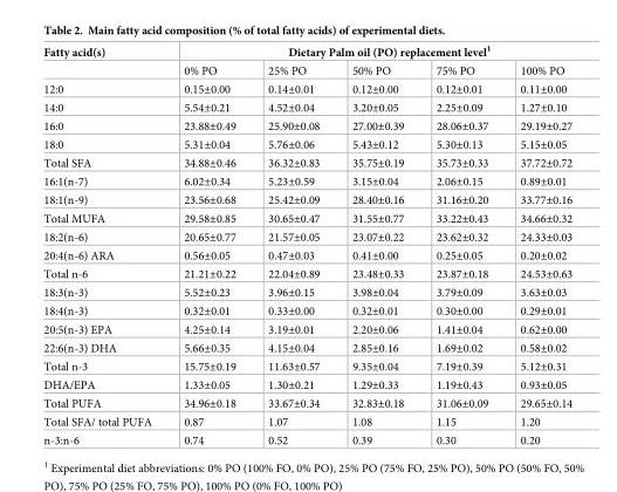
<table><thead><tr><td rowspan="2">Fatty acid(s)</td><td colspan="5">Dietary Palm oil (PO) replacement level<sup>1</sup></td></tr><tr><td>0% PO</td><td>25% PO</td><td>50% PO</td><td>75% PO</td><td>100% PO</td></tr></thead><tbody><tr><td>12:0</td><td>0.15±0.00</td><td>0.14±0.01</td><td>0.12±0.00</td><td>0.12±0.01</td><td>0.11±0.00</td></tr><tr><td>14:0</td><td>5.54±0.21</td><td>4.52±0.04</td><td>3.20±0.05</td><td>2.25±0.09</td><td>1.27±0.10</td></tr><tr><td>16:0</td><td>23.88±0.49</td><td>25.90±0.08</td><td>27.00±0.39</td><td>28.06±0.37</td><td>29.19±0.27</td></tr><tr><td>18:0</td><td>5.31±0.04</td><td>5.76±0.06</td><td>5.43±0.12</td><td>5.30±0.13</td><td>5.15±0.05</td></tr><tr><td>Total SFA</td><td>34.88±0.46</td><td>36.32±0.83</td><td>35.75±0.19</td><td>35.73±0.33</td><td>37.72±0.72</td></tr><tr><td>16:1(n-7)</td><td>6.02±0.34</td><td>5.23±0.59</td><td>3.15±0.04</td><td>2.06±0.15</td><td>0.89±0.01</td></tr><tr><td>18:1(n-9)</td><td>23.56±0.68</td><td>25.42±0.09</td><td>28.40±0.16</td><td>31.16±0.20</td><td>33.77±0.16</td></tr><tr><td>Total MUFA</td><td>29.58±0.85</td><td>30.65±0.47</td><td>31.55±0.77</td><td>33.22±0.43</td><td>34.66±0.32</td></tr><tr><td>18:2(n-6)</td><td>20.65±0.77</td><td>21.57±0.05</td><td>23.07±0.22</td><td>23.62±0.32</td><td>24.33±0.03</td></tr><tr><td>20:4(n-6) ARA</td><td>0.56±0.05</td><td>0.47±0.03</td><td>0.41±0.00</td><td>0.25±0.05</td><td>0.20±0.02</td></tr><tr><td>Total n-6</td><td>21.21±0.22</td><td>22.04±0.89</td><td>23.48±0.33</td><td>23.87±0.18</td><td>24.53±0.63</td></tr><tr><td>18:3(n-3)</td><td>5.52±0.23</td><td>3.96±0.15</td><td>3.98±0.04</td><td>3.79±0.09</td><td>3.63±0.03</td></tr><tr><td>18:4(n-3)</td><td>0.32±0.01</td><td>0.33±0.00</td><td>0.32±0.01</td><td>0.30±0.00</td><td>0.29±0.01</td></tr><tr><td>20:5(n-3) EPA</td><td>4.25±0.14</td><td>3.19±0.01</td><td>2.20±0.06</td><td>1.41±0.04</td><td>0.62±0.00</td></tr><tr><td>22:6(n-3) DHA</td><td>5.66±0.35</td><td>4.15±0.04</td><td>2.85±0.16</td><td>1.69±0.02</td><td>0.58±0.02</td></tr><tr><td>Total n-3</td><td>15.75±0.19</td><td>11.63±0.57</td><td>9.35±0.04</td><td>7.19±0.39</td><td>5.12±0.31</td></tr><tr><td>DHA/EPA</td><td>1.33±0.05</td><td>1.30±0.21</td><td>1.29±0.33</td><td>1.19±0.43</td><td>0.93±0.05</td></tr><tr><td>Total PUFA</td><td>34.96±0.18</td><td>33.67±0.34</td><td>32.83±0.18</td><td>31.06±0.09</td><td>29.65±0.14</td></tr><tr><td>Total SFA/ total PUFA</td><td>0.87</td><td>1.07</td><td>1.08</td><td>1.15</td><td>1.20</td></tr><tr><td>n-3:n-6</td><td>0.74</td><td>0.52</td><td>0.39</td><td>0.30</td><td>0.20</td></tr></tbody></table>